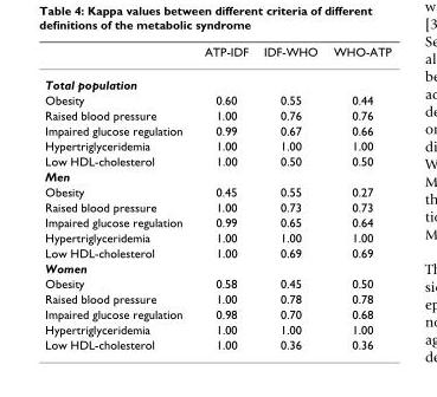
<table><thead><tr><td></td><td>ATP-IDF</td><td>IDF-WHO</td><td>WHO-ATP</td></tr></thead><tbody><tr><td colspan="4">Total population</td></tr><tr><td>Obesity</td><td>0.60</td><td>0.55</td><td>0.44</td></tr><tr><td>Raised blood pressure</td><td>1.00</td><td>0.76</td><td>0.76</td></tr><tr><td>Impaired glucose regulation</td><td>0.99</td><td>0.67</td><td>0.66</td></tr><tr><td>Hypertriglyceridemia</td><td>1.00</td><td>1.00</td><td>1.00</td></tr><tr><td>Low HDL-cholesterol</td><td>1.00</td><td>0.50</td><td>0.50</td></tr><tr><td colspan="4">Men</td></tr><tr><td>Obesity</td><td>0.45</td><td>0.55</td><td>0.27</td></tr><tr><td>Raised blood pressure</td><td>1.00</td><td>0.73</td><td>0.73</td></tr><tr><td>Impaired glucose regulation</td><td>0.99</td><td>0.65</td><td>0.64</td></tr><tr><td>Hypertriglyceridemia</td><td>1.00</td><td>1.00</td><td>1.00</td></tr><tr><td>Low HDL-cholesterol</td><td>1.00</td><td>0.69</td><td>0.69</td></tr><tr><td colspan="4">Women</td></tr><tr><td>Obesity</td><td>0.58</td><td>0.45</td><td>0.50</td></tr><tr><td>Raised blood pressure</td><td>1.00</td><td>0.78</td><td>0.78</td></tr><tr><td>Impaired glucose regulation</td><td>0.98</td><td>0.70</td><td>0.68</td></tr><tr><td>Hypertriglyceridemia</td><td>1.00</td><td>1.00</td><td>1.00</td></tr><tr><td>Low HDL-cholesterol</td><td>1.00</td><td>0.36</td><td>0.36</td></tr></tbody></table>